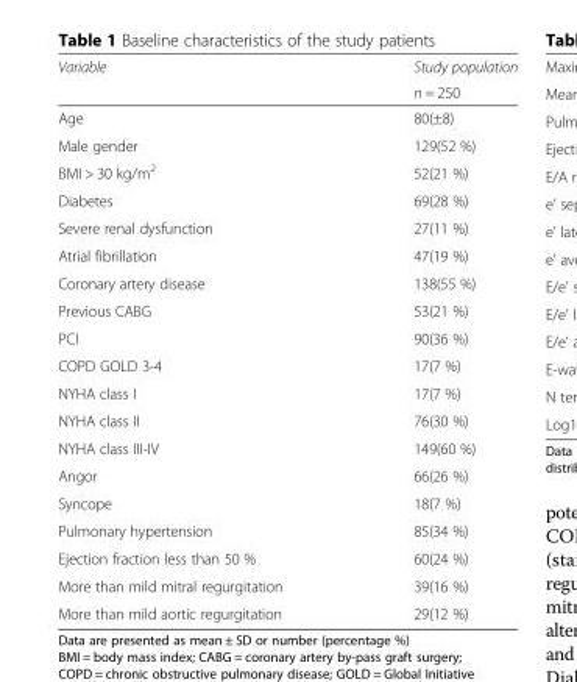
<table><thead><tr><td rowspan="2">Variable</td><td rowspan="2">Study population n = 250</td></tr><tr></tr></thead><tbody><tr><td>Age</td><td>80(±8)</td></tr><tr><td>Male gender</td><td>129(52 %)</td></tr><tr><td>BMI &gt; 30 kg/m<sup>2</sup></td><td>52(21 %)</td></tr><tr><td>Diabetes</td><td>69(28 %)</td></tr><tr><td>Severe renal dysfunction</td><td>27(11 %)</td></tr><tr><td>Atrial fibrillation</td><td>47(19 %)</td></tr><tr><td>Coronary artery disease</td><td>138(55 %)</td></tr><tr><td>Previous CABG</td><td>53(21 %)</td></tr><tr><td>PCI</td><td>90(36 %)</td></tr><tr><td>COPD GOLD 3-4</td><td>17(7 %)</td></tr><tr><td>NYHA class I</td><td>17(7 %)</td></tr><tr><td>NYHA class II</td><td>76(30 %)</td></tr><tr><td>NYHA class III-IV</td><td>149(60 %)</td></tr><tr><td>Angor</td><td>66(26 %)</td></tr><tr><td>Syncope</td><td>18(7 %)</td></tr><tr><td>Pulmonary hypertension</td><td>85(34 %)</td></tr><tr><td>Ejection fraction less than 50 %</td><td>60(24 %)</td></tr><tr><td>More than mild mitral regurgitation</td><td>39(16 %)</td></tr><tr><td>More than mild aortic regurgitation</td><td>29(12 %)</td></tr></tbody></table>